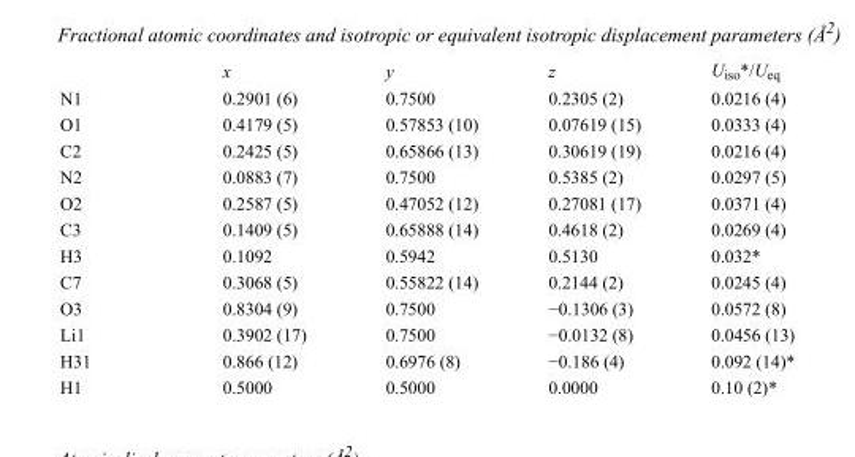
<table><thead><tr><td></td><td>x</td><td>y</td><td>z</td><td>U<sub>iso</sub>*/U<sub>eq</sub></td></tr></thead><tbody><tr><td>N1</td><td>0.2901 (6)</td><td>0.7500</td><td>0.2305 (2)</td><td>0.0216 (4)</td></tr><tr><td>O1</td><td>0.4179 (5)</td><td>0.57853 (10)</td><td>0.07619 (15)</td><td>0.0333 (4)</td></tr><tr><td>C2</td><td>0.2425 (5)</td><td>0.65866 (13)</td><td>0.30619 (19)</td><td>0.0216 (4)</td></tr><tr><td>N2</td><td>0.0883 (7)</td><td>0.7500</td><td>0.5385 (2)</td><td>0.0297 (5)</td></tr><tr><td>O2</td><td>0.2587 (5)</td><td>0.47052 (12)</td><td>0.27081 (17)</td><td>0.0371 (4)</td></tr><tr><td>C3</td><td>0.1409 (5)</td><td>0.65888 (14)</td><td>0.4618 (2)</td><td>0.0269 (4)</td></tr><tr><td>H3</td><td>0.1092</td><td>0.5942</td><td>0.5130</td><td>0.032*</td></tr><tr><td>C7</td><td>0.3068 (5)</td><td>0.55822 (14)</td><td>0.2144 (2)</td><td>0.0245 (4)</td></tr><tr><td>O3</td><td>0.8304 (9)</td><td>0.7500</td><td>−0.1306 (3)</td><td>0.0572 (8)</td></tr><tr><td>Li1</td><td>0.3902 (17)</td><td>0.7500</td><td>−0.0132 (8)</td><td>0.0456 (13)</td></tr><tr><td>H31</td><td>0.866 (12)</td><td>0.6976 (8)</td><td>−0.186 (4)</td><td>0.092 (14)*</td></tr><tr><td>H1</td><td>0.5000</td><td>0.5000</td><td>0.0000</td><td>0.10 (2)*</td></tr></tbody></table>